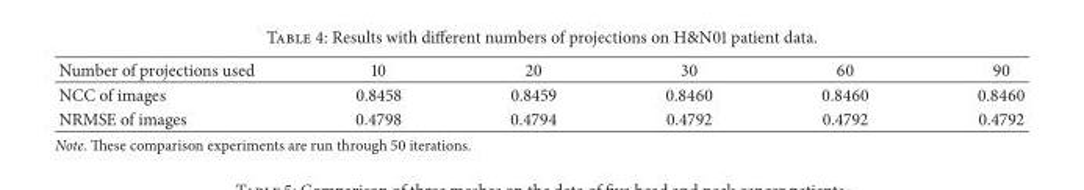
<table><thead><tr><td>Number of projections used</td><td>10</td><td>20</td><td>30</td><td>60</td><td>90</td></tr></thead><tbody><tr><td>NCC of images</td><td>0.8458</td><td>0.8459</td><td>0.8460</td><td>0.8460</td><td>0.8460</td></tr><tr><td>NRMSE of images</td><td>0.4798</td><td>0.4794</td><td>0.4792</td><td>0.4792</td><td>0.4792</td></tr></tbody></table>